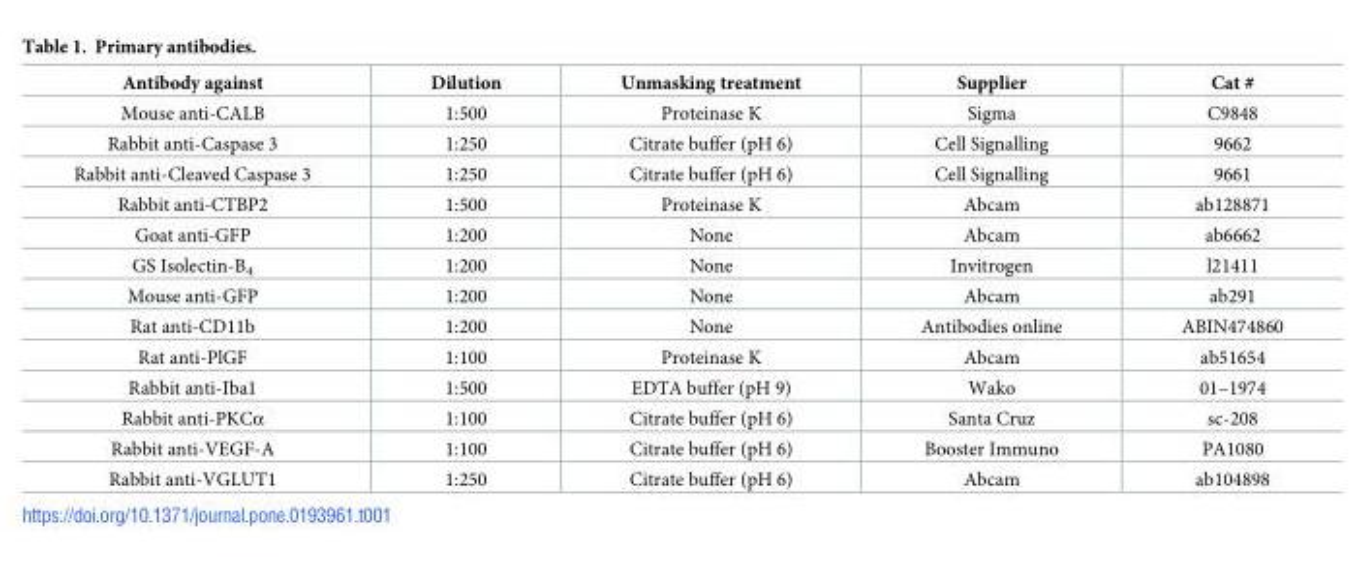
<table><thead><tr><td>Antibody against</td><td>Dilution</td><td>Unmasking treatment</td><td>Supplier</td><td>Cat #</td></tr></thead><tbody><tr><td>Mouse anti-CALB</td><td>1:500</td><td>Proteinase K</td><td>Sigma</td><td>C9848</td></tr><tr><td>Rabbit anti-Caspase 3</td><td>1:250</td><td>Citrate buffer (pH 6)</td><td>Cell Signalling</td><td>9662</td></tr><tr><td>Rabbit anti-Cleaved Caspase 3</td><td>1:250</td><td>Citrate buffer (pH 6)</td><td>Cell Signalling</td><td>9661</td></tr><tr><td>Rabbit anti-CTBP2</td><td>1:500</td><td>Proteinase K</td><td>Abcam</td><td>ab128871</td></tr><tr><td>Goat anti-GFP</td><td>1:200</td><td>None</td><td>Abcam</td><td>ab6662</td></tr><tr><td>GS Isolectin-B<sub>4</sub></td><td>1:200</td><td>None</td><td>Invitrogen</td><td>l21411</td></tr><tr><td>Mouse anti-GFP</td><td>1:200</td><td>None</td><td>Abcam</td><td>ab291</td></tr><tr><td>Rat anti-CD11b</td><td>1:200</td><td>None</td><td>Antibodies online</td><td>ABIN474860</td></tr><tr><td>Rat anti-PlGF</td><td>1:100</td><td>Proteinase K</td><td>Abcam</td><td>ab51654</td></tr><tr><td>Rabbit anti-Iba1</td><td>1:500</td><td>EDTA buffer (pH 9)</td><td>Wako</td><td>01–1974</td></tr><tr><td>Rabbit anti-PKCα</td><td>1:100</td><td>Citrate buffer (pH 6)</td><td>Santa Cruz</td><td>sc-208</td></tr><tr><td>Rabbit anti-VEGF-A</td><td>1:100</td><td>Citrate buffer (pH 6)</td><td>Booster Immuno</td><td>PA1080</td></tr><tr><td>Rabbit anti-VGLUT1</td><td>1:250</td><td>Citrate buffer (pH 6)</td><td>Abcam</td><td>ab104898</td></tr></tbody></table>